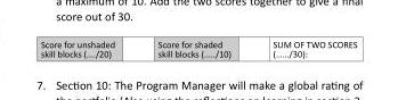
<table><tbody><tr><td>Score for unshaded skill blocks (…./20)</td><td>Score for shaded skill blocks (…../10)</td><td>SUM OF TWO SCORES (……/30):</td></tr></tbody></table>